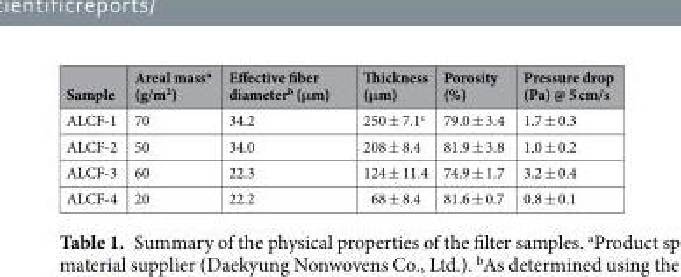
<table><thead><tr><td>Sample</td><td>Areal mass<sup>a</sup> (g/m<sup>2</sup>)</td><td>Effective fiber diameter<sup>b</sup> (μm)</td><td>Thickness (μm)</td><td>Porosity (%)</td><td>Pressure drop (Pa) @ 5 cm/s</td></tr></thead><tbody><tr><td>ALCF-1</td><td>70</td><td>34.2</td><td>250 ± 7.1<sup>c</sup></td><td>79.0 ± 3.4</td><td>1.7 ± 0.3</td></tr><tr><td>ALCF-2</td><td>50</td><td>34.0</td><td>208 ± 8.4</td><td>81.9 ± 3.8</td><td>1.0 ± 0.2</td></tr><tr><td>ALCF-3</td><td>60</td><td>22.3</td><td>124 ± 11.4</td><td>74.9 ± 1.7</td><td>3.2 ± 0.4</td></tr><tr><td>ALCF-4</td><td>20</td><td>22.2</td><td>68 ± 8.4</td><td>81.6 ± 0.7</td><td>0.8 ± 0.1</td></tr></tbody></table>